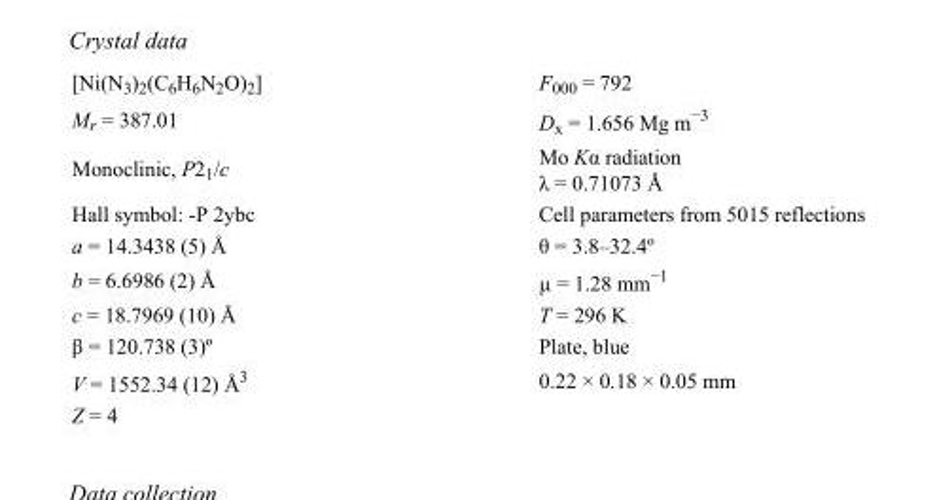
<table><tbody><tr><td>[Ni(N<sub>3</sub>)<sub>2</sub>(C<sub>6</sub>H<sub>6</sub>N<sub>2</sub>O)<sub>2</sub>]</td><td>F<sub>000</sub> = 792</td></tr><tr><td>M<sub>r</sub> = 387.01</td><td>D<sub>x</sub> = 1.656 Mg m<sup>−3</sup></td></tr><tr><td>Monoclinic, P2<sub>1</sub>/c</td><td>Mo Kα radiation λ = 0.71073 Å</td></tr><tr><td>Hall symbol: -P 2ybc</td><td>Cell parameters from 5015 reflections</td></tr><tr><td>a = 14.3438 (5) Å</td><td>θ = 3.8–32.4º</td></tr><tr><td>b = 6.6986 (2) Å</td><td>µ = 1.28 mm<sup>−1</sup></td></tr><tr><td>c = 18.7969 (10) Å</td><td>T = 296 K</td></tr><tr><td>β = 120.738 (3)º</td><td>Plate, blue</td></tr><tr><td>V = 1552.34 (12) Å<sup>3</sup></td><td>0.22 × 0.18 × 0.05 mm</td></tr><tr><td>Z = 4</td><td></td></tr></tbody></table>